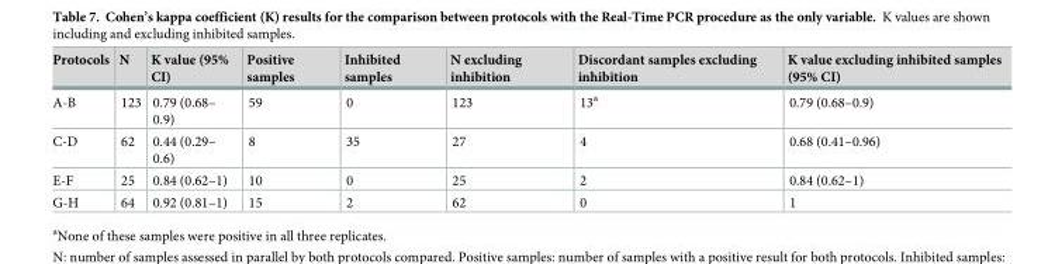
<table><thead><tr><td>Protocols</td><td>N</td><td>K value (95% CI)</td><td>Positive samples</td><td>Inhibited samples</td><td>N excluding inhibition</td><td>Discordant samples excluding inhibition</td><td>K value excluding inhibited samples (95% CI)</td></tr></thead><tbody><tr><td>A-B</td><td>123</td><td>0.79 (0.68– 0.9)</td><td>59</td><td>0</td><td>123</td><td>13<sup>a</sup></td><td>0.79 (0.68–0.9)</td></tr><tr><td>C-D</td><td>62</td><td>0.44 (0.29– 0.6)</td><td>8</td><td>35</td><td>27</td><td>4</td><td>0.68 (0.41–0.96)</td></tr><tr><td>E-F</td><td>25</td><td>0.84 (0.62–1)</td><td>10</td><td>0</td><td>25</td><td>2</td><td>0.84 (0.62–1)</td></tr><tr><td>G-H</td><td>64</td><td>0.92 (0.81–1)</td><td>15</td><td>2</td><td>62</td><td>0</td><td>1</td></tr></tbody></table>